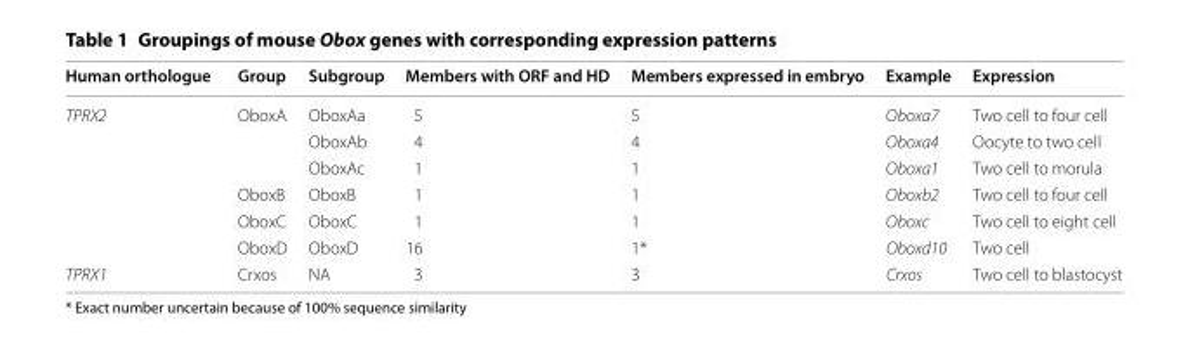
<table><thead><tr><td>Human orthologue</td><td>Group</td><td>Subgroup</td><td>Members with ORF and HD</td><td>Members expressed in embryo</td><td>Example</td><td>Expression</td></tr></thead><tbody><tr><td rowspan="6">TPRX2</td><td rowspan="3">OboxA</td><td>OboxAa</td><td>5</td><td>5</td><td>Oboxa7</td><td>Two cell to four cell</td></tr><tr><td>OboxAb</td><td>4</td><td>4</td><td>Oboxa4</td><td>Oocyte to two cell</td></tr><tr><td>OboxAc</td><td>1</td><td>1</td><td>Oboxa1</td><td>Two cell to morula</td></tr><tr><td>OboxB</td><td>OboxB</td><td>1</td><td>1</td><td>Oboxb2</td><td>Two cell to four cell</td></tr><tr><td>OboxC</td><td>OboxC</td><td>1</td><td>1</td><td>Oboxc</td><td>Two cell to eight cell</td></tr><tr><td>OboxD</td><td>OboxD</td><td>16</td><td>1*</td><td>Oboxd10</td><td>Two cell</td></tr><tr><td>TPRX1</td><td>Crxos</td><td>NA</td><td>3</td><td>3</td><td>Crxos</td><td>Two cell to blastocyst</td></tr></tbody></table>